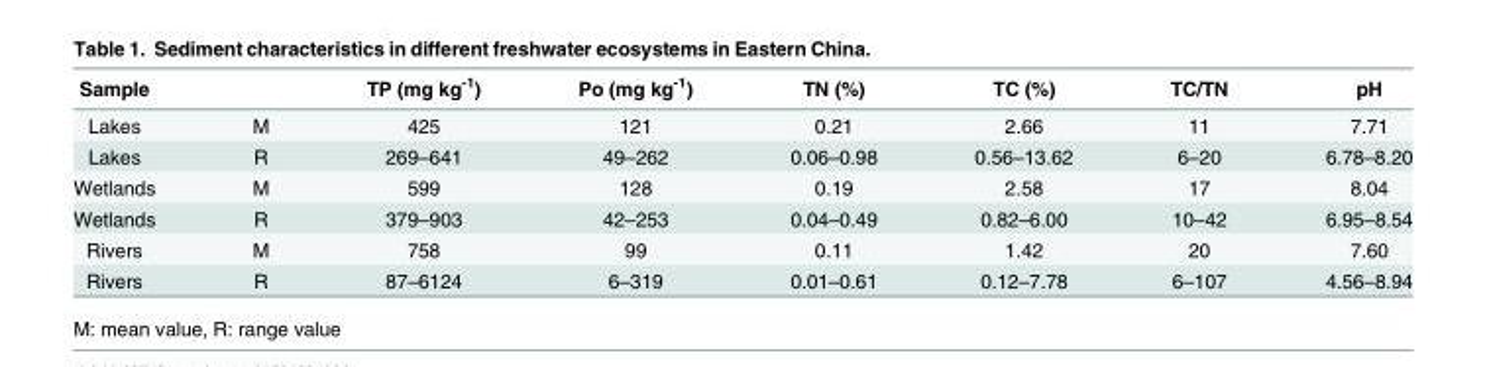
<table><thead><tr><td>Sample</td><td></td><td>TP (mg kg<sup>-1</sup>)</td><td>Po (mg kg<sup>-1</sup>)</td><td>TN (%)</td><td>TC (%)</td><td>TC/TN</td><td>pH</td></tr></thead><tbody><tr><td>Lakes</td><td>M</td><td>425</td><td>121</td><td>0.21</td><td>2.66</td><td>11</td><td>7.71</td></tr><tr><td>Lakes</td><td>R</td><td>269–641</td><td>49–262</td><td>0.06–0.98</td><td>0.56–13.62</td><td>6–20</td><td>6.78–8.20</td></tr><tr><td>Wetlands</td><td>M</td><td>599</td><td>128</td><td>0.19</td><td>2.58</td><td>17</td><td>8.04</td></tr><tr><td>Wetlands</td><td>R</td><td>379–903</td><td>42–253</td><td>0.04–0.49</td><td>0.82–6.00</td><td>10–42</td><td>6.95–8.54</td></tr><tr><td>Rivers</td><td>M</td><td>758</td><td>99</td><td>0.11</td><td>1.42</td><td>20</td><td>7.60</td></tr><tr><td>Rivers</td><td>R</td><td>87–6124</td><td>6–319</td><td>0.01–0.61</td><td>0.12–7.78</td><td>6–107</td><td>4.56–8.94</td></tr></tbody></table>